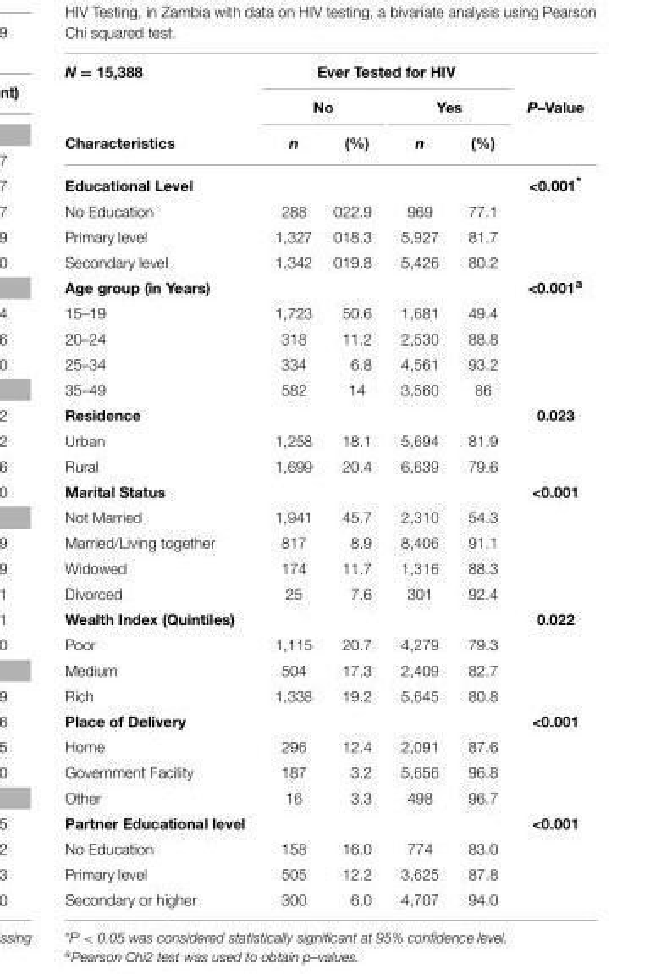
<table><thead><tr><td rowspan="3">N = 15,388 Characteristics</td><td colspan="4">Ever Tested for HIV</td><td rowspan="3">P–Value</td></tr><tr><td colspan="2">No</td><td colspan="2">Yes</td></tr><tr><td>n</td><td>(%)</td><td>n</td><td>(%)</td></tr></thead><tbody><tr><td>Educational Level</td><td></td><td></td><td></td><td></td><td>&lt;0.001*</td></tr><tr><td>No Education</td><td>288</td><td>022.9</td><td>969</td><td>77.1</td><td></td></tr><tr><td>Primary level</td><td>1,327</td><td>018.3</td><td>5,927</td><td>81.7</td><td></td></tr><tr><td>Secondary level</td><td>1,342</td><td>019.8</td><td>5,426</td><td>80.2</td><td></td></tr><tr><td>Age group (in Years)</td><td></td><td></td><td></td><td></td><td>&lt;0.001<sup>a</sup></td></tr><tr><td>15–19</td><td>1,723</td><td>50.6</td><td>1,681</td><td>49.4</td><td></td></tr><tr><td>20–24</td><td>318</td><td>11.2</td><td>2,530</td><td>88.8</td><td></td></tr><tr><td>25–34</td><td>334</td><td>6.8</td><td>4,561</td><td>93.2</td><td></td></tr><tr><td>35–49</td><td>582</td><td>14</td><td>3,560</td><td>86</td><td></td></tr><tr><td>Residence</td><td></td><td></td><td></td><td></td><td>0.023</td></tr><tr><td>Urban</td><td>1,258</td><td>18.1</td><td>5,694</td><td>81.9</td><td></td></tr><tr><td>Rural</td><td>1,699</td><td>20.4</td><td>6,639</td><td>79.6</td><td></td></tr><tr><td>Marital Status</td><td></td><td></td><td></td><td></td><td>&lt;0.001</td></tr><tr><td>Not Married</td><td>1,941</td><td>45.7</td><td>2,310</td><td>54.3</td><td></td></tr><tr><td>Married/Living together</td><td>817</td><td>8.9</td><td>8,406</td><td>91.1</td><td></td></tr><tr><td>Widowed</td><td>174</td><td>11.7</td><td>1,316</td><td>88.3</td><td></td></tr><tr><td>Divorced</td><td>25</td><td>7.6</td><td>301</td><td>92.4</td><td></td></tr><tr><td>Wealth Index (Quintiles)</td><td></td><td></td><td></td><td></td><td>0.022</td></tr><tr><td>Poor</td><td>1,115</td><td>20.7</td><td>4,279</td><td>79.3</td><td></td></tr><tr><td>Medium</td><td>504</td><td>17.3</td><td>2,409</td><td>82.7</td><td></td></tr><tr><td>Rich</td><td>1,338</td><td>19.2</td><td>5,645</td><td>80.8</td><td></td></tr><tr><td>Place of Delivery</td><td></td><td></td><td></td><td></td><td>&lt;0.001</td></tr><tr><td>Home</td><td>296</td><td>12.4</td><td>2,091</td><td>87.6</td><td></td></tr><tr><td>Government Facility</td><td>187</td><td>3.2</td><td>5,656</td><td>96.8</td><td></td></tr><tr><td>Other</td><td>16</td><td>3.3</td><td>498</td><td>96.7</td><td></td></tr><tr><td>Partner Educational level</td><td></td><td></td><td></td><td></td><td>&lt;0.001</td></tr><tr><td>No Education</td><td>158</td><td>16.0</td><td>774</td><td>83.0</td><td></td></tr><tr><td>Primary level</td><td>505</td><td>12.2</td><td>3,625</td><td>87.8</td><td></td></tr><tr><td>Secondary or higher</td><td>300</td><td>6.0</td><td>4,707</td><td>94.0</td><td></td></tr></tbody></table>